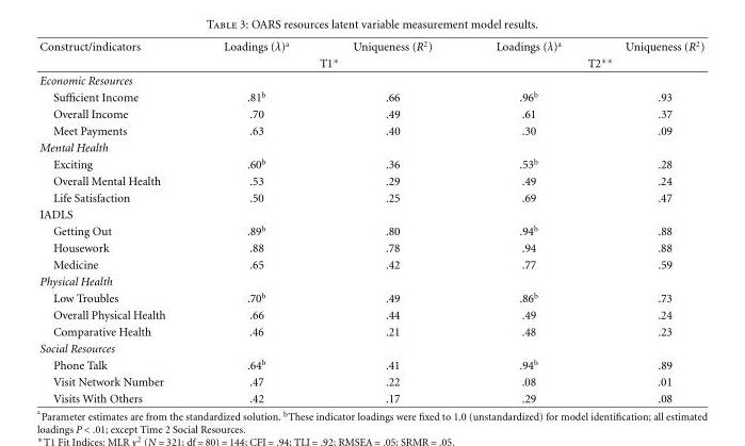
<table><thead><tr><td rowspan="2">Construct/indicators</td><td>Loadings (λ)<sup>a</sup></td><td>Uniqueness (R<sup>2</sup>)</td><td>Loadings (λ)<sup>a</sup></td><td>Uniqueness (R<sup>2</sup>)</td></tr><tr><td colspan="2">T1∗</td><td colspan="2">T2∗∗</td></tr></thead><tbody><tr><td colspan="5">Economic Resources</td></tr><tr><td>Sufficient Income</td><td>.81<sup>b</sup></td><td>.66</td><td>.96<sup>b</sup></td><td>.93</td></tr><tr><td>Overall Income</td><td>.70</td><td>.49</td><td>.61</td><td>.37</td></tr><tr><td>Meet Payments</td><td>.63</td><td>.40</td><td>.30</td><td>.09</td></tr><tr><td colspan="5">Mental Health</td></tr><tr><td>Exciting</td><td>.60<sup>b</sup></td><td>.36</td><td>.53<sup>b</sup></td><td>.28</td></tr><tr><td>Overall Mental Health</td><td>.53</td><td>.29</td><td>.49</td><td>.24</td></tr><tr><td>Life Satisfaction</td><td>.50</td><td>.25</td><td>.69</td><td>.47</td></tr><tr><td colspan="5">IADLS</td></tr><tr><td>Getting Out</td><td>.89<sup>b</sup></td><td>.80</td><td>.94<sup>b</sup></td><td>.88</td></tr><tr><td>Housework</td><td>.88</td><td>.78</td><td>.94</td><td>.88</td></tr><tr><td>Medicine</td><td>.65</td><td>.42</td><td>.77</td><td>.59</td></tr><tr><td colspan="5">Physical Health</td></tr><tr><td>Low Troubles</td><td>.70<sup>b</sup></td><td>.49</td><td>.86<sup>b</sup></td><td>.73</td></tr><tr><td>Overall Physical Health</td><td>.66</td><td>.44</td><td>.49</td><td>.24</td></tr><tr><td>Comparative Health</td><td>.46</td><td>.21</td><td>.48</td><td>.23</td></tr><tr><td colspan="5">Social Resources</td></tr><tr><td>Phone Talk</td><td>.64<sup>b</sup></td><td>.41</td><td>.94<sup>b</sup></td><td>.89</td></tr><tr><td>Visit Network Number</td><td>.47</td><td>.22</td><td>.08</td><td>.01</td></tr><tr><td>Visits With Others</td><td>.42</td><td>.17</td><td>.29</td><td>.08</td></tr></tbody></table>